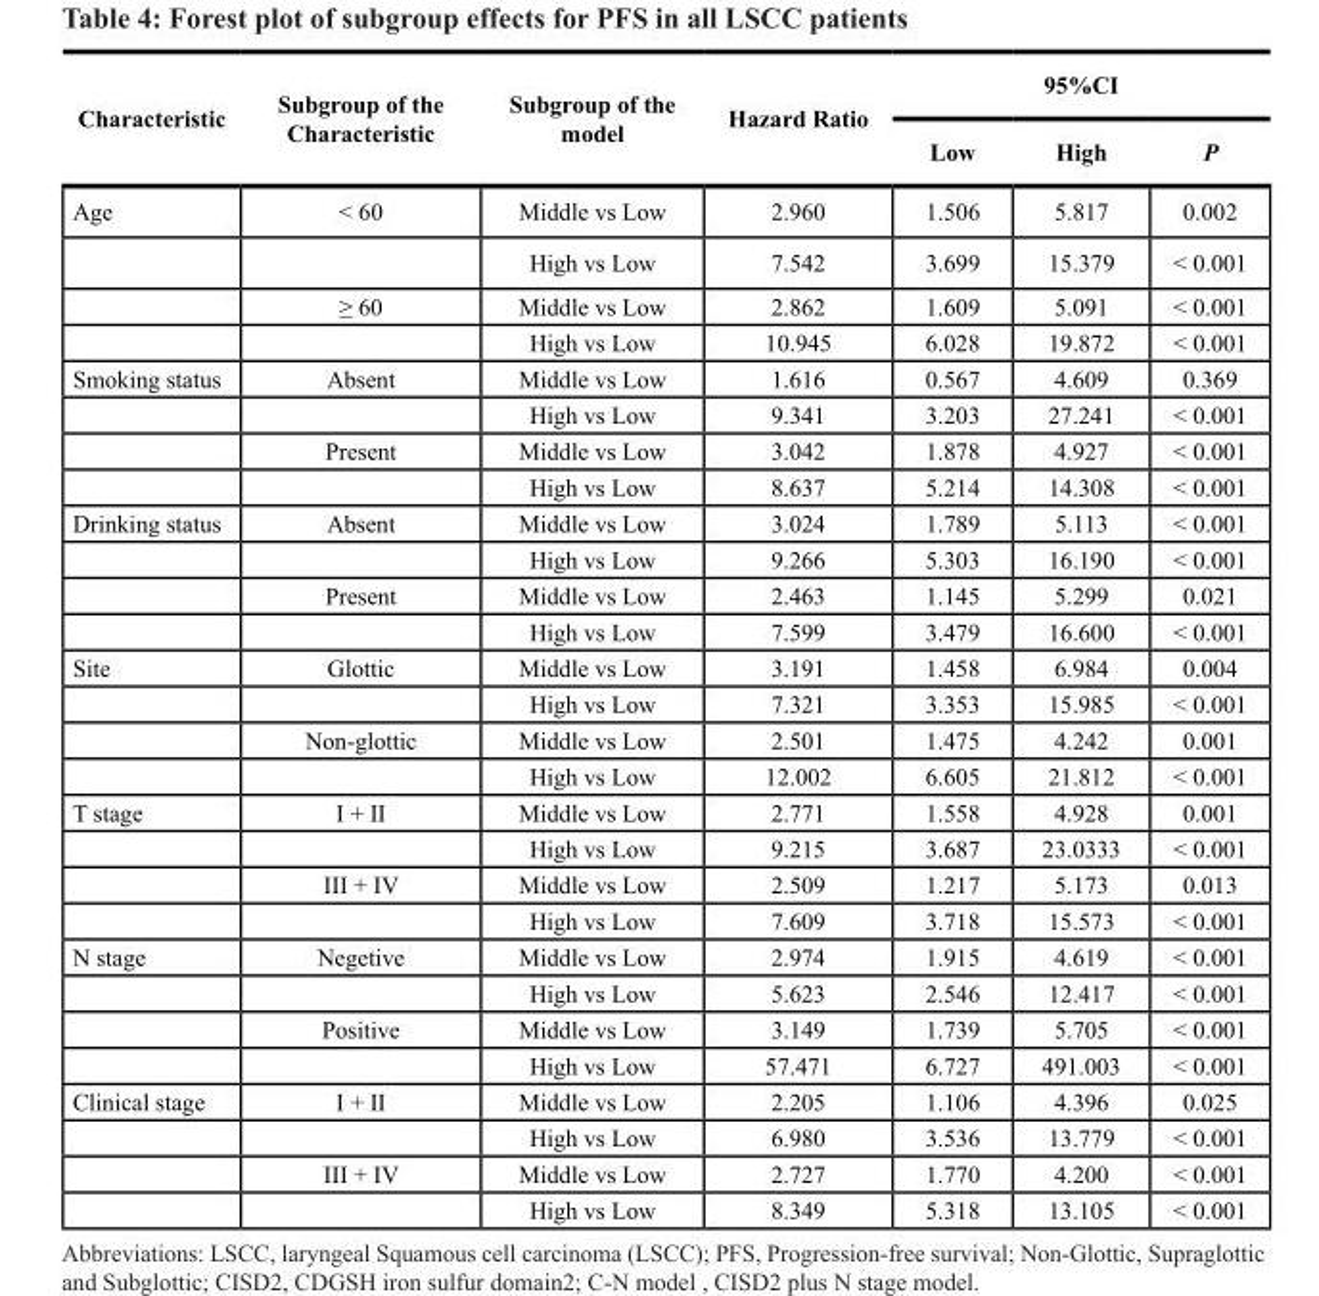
<table><thead><tr><td rowspan="2">Characteristic</td><td rowspan="2">Subgroup of the Characteristic</td><td rowspan="2">Subgroup of the model</td><td rowspan="2">Hazard Ratio</td><td colspan="3">95%CI</td></tr><tr><td>Low</td><td>High</td><td>P</td></tr></thead><tbody><tr><td rowspan="4">Age</td><td>&lt; 60</td><td>Middle vs Low</td><td>2.960</td><td>1.506</td><td>5.817</td><td>0.002</td></tr><tr><td></td><td>High vs Low</td><td>7.542</td><td>3.699</td><td>15.379</td><td>&lt; 0.001</td></tr><tr><td>≥ 60</td><td>Middle vs Low</td><td>2.862</td><td>1.609</td><td>5.091</td><td>&lt; 0.001</td></tr><tr><td></td><td>High vs Low</td><td>10.945</td><td>6.028</td><td>19.872</td><td>&lt; 0.001</td></tr><tr><td rowspan="4">Smoking status</td><td>Absent</td><td>Middle vs Low</td><td>1.616</td><td>0.567</td><td>4.609</td><td>0.369</td></tr><tr><td></td><td>High vs Low</td><td>9.341</td><td>3.203</td><td>27.241</td><td>&lt; 0.001</td></tr><tr><td>Present</td><td>Middle vs Low</td><td>3.042</td><td>1.878</td><td>4.927</td><td>&lt; 0.001</td></tr><tr><td></td><td>High vs Low</td><td>8.637</td><td>5.214</td><td>14.308</td><td>&lt; 0.001</td></tr><tr><td rowspan="4">Drinking status</td><td>Absent</td><td>Middle vs Low</td><td>3.024</td><td>1.789</td><td>5.113</td><td>&lt; 0.001</td></tr><tr><td></td><td>High vs Low</td><td>9.266</td><td>5.303</td><td>16.190</td><td>&lt; 0.001</td></tr><tr><td>Present</td><td>Middle vs Low</td><td>2.463</td><td>1.145</td><td>5.299</td><td>0.021</td></tr><tr><td></td><td>High vs Low</td><td>7.599</td><td>3.479</td><td>16.600</td><td>&lt; 0.001</td></tr><tr><td rowspan="4">Site</td><td>Glottic</td><td>Middle vs Low</td><td>3.191</td><td>1.458</td><td>6.984</td><td>0.004</td></tr><tr><td></td><td>High vs Low</td><td>7.321</td><td>3.353</td><td>15.985</td><td>&lt; 0.001</td></tr><tr><td>Non-glottic</td><td>Middle vs Low</td><td>2.501</td><td>1.475</td><td>4.242</td><td>0.001</td></tr><tr><td></td><td>High vs Low</td><td>12.002</td><td>6.605</td><td>21.812</td><td>&lt; 0.001</td></tr><tr><td rowspan="4">T stage</td><td>I + II</td><td>Middle vs Low</td><td>2.771</td><td>1.558</td><td>4.928</td><td>0.001</td></tr><tr><td></td><td>High vs Low</td><td>9.215</td><td>3.687</td><td>23.0333</td><td>&lt; 0.001</td></tr><tr><td>III + IV</td><td>Middle vs Low</td><td>2.509</td><td>1.217</td><td>5.173</td><td>0.013</td></tr><tr><td></td><td>High vs Low</td><td>7.609</td><td>3.718</td><td>15.573</td><td>&lt; 0.001</td></tr><tr><td rowspan="4">N stage</td><td>Negetive</td><td>Middle vs Low</td><td>2.974</td><td>1.915</td><td>4.619</td><td>&lt; 0.001</td></tr><tr><td></td><td>High vs Low</td><td>5.623</td><td>2.546</td><td>12.417</td><td>&lt; 0.001</td></tr><tr><td>Positive</td><td>Middle vs Low</td><td>3.149</td><td>1.739</td><td>5.705</td><td>&lt; 0.001</td></tr><tr><td></td><td>High vs Low</td><td>57.471</td><td>6.727</td><td>491.003</td><td>&lt; 0.001</td></tr><tr><td rowspan="4">Clinical stage</td><td>I + II</td><td>Middle vs Low</td><td>2.205</td><td>1.106</td><td>4.396</td><td>0.025</td></tr><tr><td></td><td>High vs Low</td><td>6.980</td><td>3.536</td><td>13.779</td><td>&lt; 0.001</td></tr><tr><td>III + IV</td><td>Middle vs Low</td><td>2.727</td><td>1.770</td><td>4.200</td><td>&lt; 0.001</td></tr><tr><td></td><td>High vs Low</td><td>8.349</td><td>5.318</td><td>13.105</td><td>&lt; 0.001</td></tr></tbody></table>